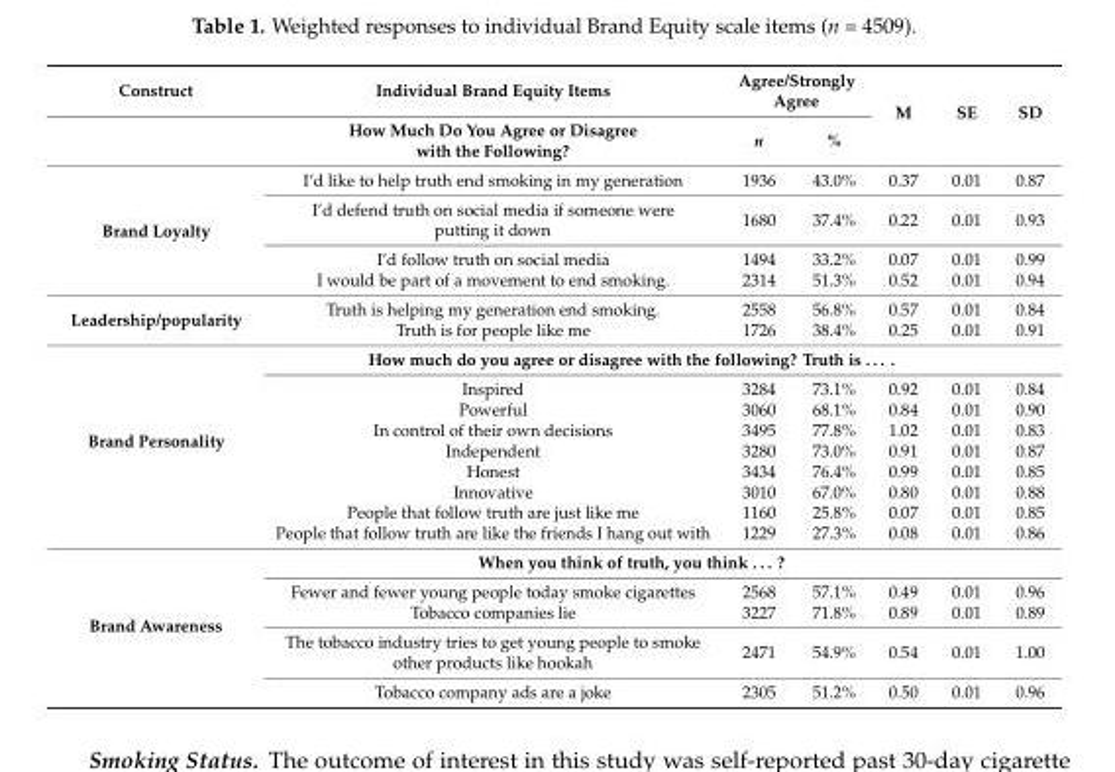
<table><thead><tr><td rowspan="2">Construct</td><td rowspan="2">Individual Brand Equity Items How Much Do You Agree or Disagree with the Following?</td><td colspan="2">Agree/Strongly Agree</td><td rowspan="2">M</td><td rowspan="2">SE</td><td rowspan="2">SD</td></tr><tr><td>n</td><td>%</td></tr></thead><tbody><tr><td rowspan="4">Brand Loyalty</td><td>I’d like to help truth end smoking in my generation</td><td>1936</td><td>43.0%</td><td>0.37</td><td>0.01</td><td>0.87</td></tr><tr><td>I’d defend truth on social media if someone were putting it down</td><td>1680</td><td>37.4%</td><td>0.22</td><td>0.01</td><td>0.93</td></tr><tr><td>I’d follow truth on social media</td><td>1494</td><td>33.2%</td><td>0.07</td><td>0.01</td><td>0.99</td></tr><tr><td>I would be part of a movement to end smoking.</td><td>2314</td><td>51.3%</td><td>0.52</td><td>0.01</td><td>0.94</td></tr><tr><td rowspan="2">Leadership/popularity</td><td>Truth is helping my generation end smoking.</td><td>2558</td><td>56.8%</td><td>0.57</td><td>0.01</td><td>0.84</td></tr><tr><td>Truth is for people like me</td><td>1726</td><td>38.4%</td><td>0.25</td><td>0.01</td><td>0.91</td></tr><tr><td rowspan="9">Brand Personality</td><td colspan="5">How much do you agree or disagree with the following? Truth is . . . .</td><td></td></tr><tr><td>Inspired</td><td>3284</td><td>73.1%</td><td>0.92</td><td>0.01</td><td>0.84</td></tr><tr><td>Powerful</td><td>3060</td><td>68.1%</td><td>0.84</td><td>0.01</td><td>0.90</td></tr><tr><td>In control of their own decisions</td><td>3495</td><td>77.8%</td><td>1.02</td><td>0.01</td><td>0.83</td></tr><tr><td>Independent</td><td>3280</td><td>73.0%</td><td>0.91</td><td>0.01</td><td>0.87</td></tr><tr><td>Honest</td><td>3434</td><td>76.4%</td><td>0.99</td><td>0.01</td><td>0.85</td></tr><tr><td>Innovative</td><td>3010</td><td>67.0%</td><td>0.80</td><td>0.01</td><td>0.88</td></tr><tr><td>People that follow truth are just like me</td><td>1160</td><td>25.8%</td><td>0.07</td><td>0.01</td><td>0.85</td></tr><tr><td>People that follow truth are like the friends I hang out with</td><td>1229</td><td>27.3%</td><td>0.08</td><td>0.01</td><td>0.86</td></tr><tr><td rowspan="5">Brand Awareness</td><td colspan="5">When you think of truth, you think . . . ?</td><td></td></tr><tr><td>Fewer and fewer young people today smoke cigarettes</td><td>2568</td><td>57.1%</td><td>0.49</td><td>0.01</td><td>0.96</td></tr><tr><td>Tobacco companies lie</td><td>3227</td><td>71.8%</td><td>0.89</td><td>0.01</td><td>0.89</td></tr><tr><td>The tobacco industry tries to get young people to smoke other products like hookah</td><td>2471</td><td>54.9%</td><td>0.54</td><td>0.01</td><td>1.00</td></tr><tr><td>Tobacco company ads are a joke</td><td>2305</td><td>51.2%</td><td>0.50</td><td>0.01</td><td>0.96</td></tr></tbody></table>